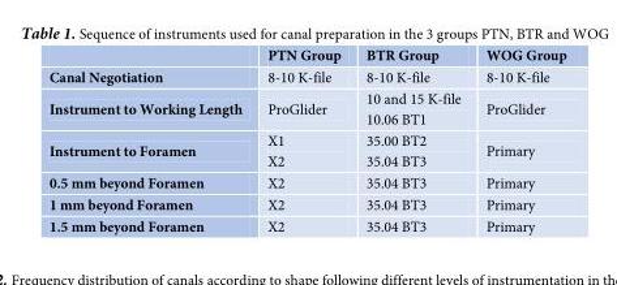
<table><thead><tr><td></td><td>PTN Group</td><td>BTR Group</td><td>WOG Group</td></tr></thead><tbody><tr><td>Canal Negotiation</td><td>8-10 K-file</td><td>8-10 K-file</td><td>8-10 K-file</td></tr><tr><td>Instrument to Working Length</td><td>ProGlider</td><td>10 and 15 K-file 10.06 BT1</td><td>ProGlider</td></tr><tr><td>Instrument to Foramen</td><td>X1 X2</td><td>35.00 BT2 35.04 BT3</td><td>Primary</td></tr><tr><td>0.5 mm beyond Foramen</td><td>X2</td><td>35.04 BT3</td><td>Primary</td></tr><tr><td>1 mm beyond Foramen</td><td>X2</td><td>35.04 BT3</td><td>Primary</td></tr><tr><td>1.5 mm beyond Foramen</td><td>X2</td><td>35.04 BT3</td><td>Primary</td></tr></tbody></table>